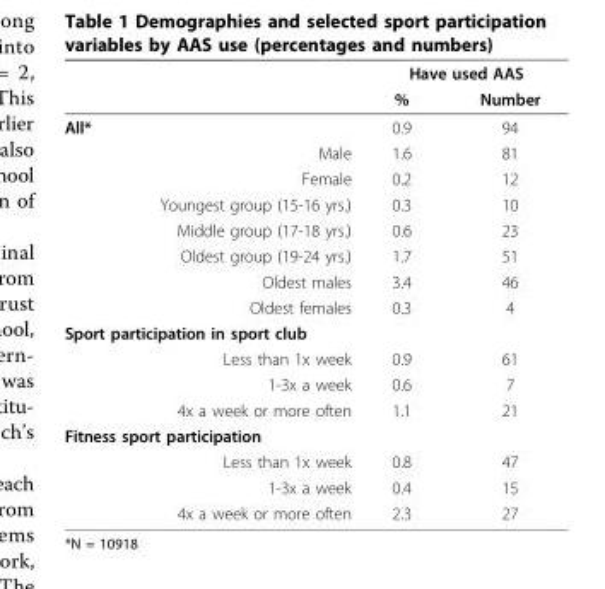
<table><thead><tr><td rowspan="2"></td><td colspan="2">Have used AAS</td></tr><tr><td>%</td><td>Number</td></tr></thead><tbody><tr><td>All*</td><td>0.9</td><td>94</td></tr><tr><td>Male</td><td>1.6</td><td>81</td></tr><tr><td>Female</td><td>0.2</td><td>12</td></tr><tr><td>Youngest group (15-16 yrs.)</td><td>0.3</td><td>10</td></tr><tr><td>Middle group (17-18 yrs.)</td><td>0.6</td><td>23</td></tr><tr><td>Oldest group (19-24 yrs.)</td><td>1.7</td><td>51</td></tr><tr><td>Oldest males</td><td>3.4</td><td>46</td></tr><tr><td>Oldest females</td><td>0.3</td><td>4</td></tr><tr><td colspan="3">Sport participation in sport club</td></tr><tr><td>Less than 1x week</td><td>0.9</td><td>61</td></tr><tr><td>1-3x a week</td><td>0.6</td><td>7</td></tr><tr><td>4x a week or more often</td><td>1.1</td><td>21</td></tr><tr><td colspan="3">Fitness sport participation</td></tr><tr><td>Less than 1x week</td><td>0.8</td><td>47</td></tr><tr><td>1-3x a week</td><td>0.4</td><td>15</td></tr><tr><td>4x a week or more often</td><td>2.3</td><td>27</td></tr></tbody></table>